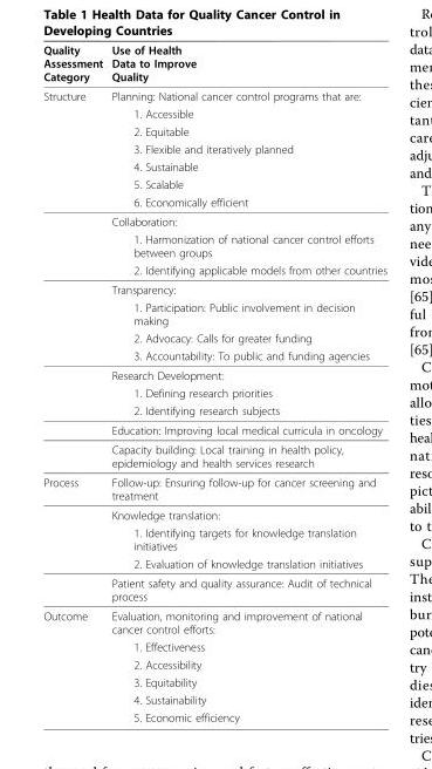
<table><thead><tr><td>Quality Assessment Category</td><td>Use of Health Data to Improve Quality</td></tr></thead><tbody><tr><td rowspan="19">Structure</td><td>Planning: National cancer control programs that are:</td></tr><tr><td>1. Accessible</td></tr><tr><td>2. Equitable</td></tr><tr><td>3. Flexible and iteratively planned</td></tr><tr><td>4. Sustainable</td></tr><tr><td>5. Scalable</td></tr><tr><td>6. Economically efficient</td></tr><tr><td>Collaboration:</td></tr><tr><td>1. Harmonization of national cancer control efforts between groups</td></tr><tr><td>2. Identifying applicable models from other countries</td></tr><tr><td>Transparency:</td></tr><tr><td>1. Participation: Public involvement in decision making</td></tr><tr><td>2. Advocacy: Calls for greater funding</td></tr><tr><td>3. Accountability: To public and funding agencies</td></tr><tr><td>Research Development:</td></tr><tr><td>1. Defining research priorities</td></tr><tr><td>2. Identifying research subjects</td></tr><tr><td>Education: Improving local medical curricula in oncology</td></tr><tr><td>Capacity building: Local training in health policy, epidemiology and health services research</td></tr><tr><td rowspan="5">Process</td><td>Follow-up: Ensuring follow-up for cancer screening and treatment</td></tr><tr><td>Knowledge translation:</td></tr><tr><td>1. Identifying targets for knowledge translation initiatives</td></tr><tr><td>2. Evaluation of knowledge translation initiatives</td></tr><tr><td>Patient safety and quality assurance: Audit of technical process</td></tr><tr><td rowspan="6">Outcome</td><td>Evaluation, monitoring and improvement of national cancer control efforts:</td></tr><tr><td>1. Effectiveness</td></tr><tr><td>2. Accessibility</td></tr><tr><td>3. Equitability</td></tr><tr><td>4. Sustainability</td></tr><tr><td>5. Economic efficiency</td></tr></tbody></table>